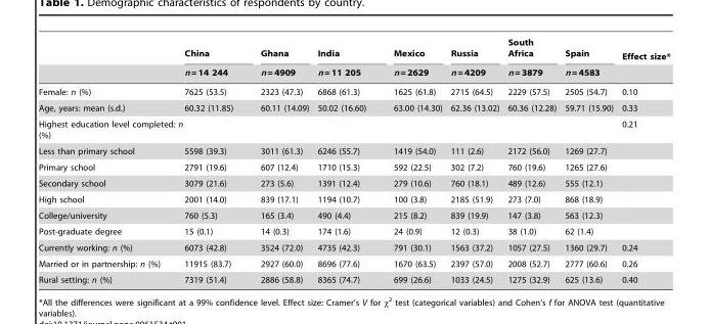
<table><thead><tr><td rowspan="2"></td><td rowspan="2">China n = 14 244</td><td rowspan="2">Ghana n = 4909</td><td rowspan="2">India n = 11 205</td><td rowspan="2">Mexico n = 2629</td><td rowspan="2">Russia n = 4209</td><td rowspan="2">South Africa n = 3879</td><td rowspan="2">Spain n = 4583</td><td rowspan="2">Effect size*</td></tr><tr></tr></thead><tbody><tr><td>Female: n (%)</td><td>7625 (53.5)</td><td>2323 (47.3)</td><td>6868 (61.3)</td><td>1625 (61.8)</td><td>2715 (64.5)</td><td>2229 (57.5)</td><td>2505 (54.7)</td><td>0.10</td></tr><tr><td>Age, years: mean (s.d.)</td><td>60.32 (11.85)</td><td>60.11 (14.09)</td><td>50.02 (16.60)</td><td>63.00 (14.30)</td><td>62.36 (13.02)</td><td>60.36 (12.28)</td><td>59.71 (15.90)</td><td>0.33</td></tr><tr><td>Highest education level completed: n (%)</td><td></td><td></td><td></td><td></td><td></td><td></td><td></td><td>0.21</td></tr><tr><td>Less than primary school</td><td>5598 (39.3)</td><td>3011 (61.3)</td><td>6246 (55.7)</td><td>1419 (54.0)</td><td>111 (2.6)</td><td>2172 (56.0)</td><td>1269 (27.7)</td><td></td></tr><tr><td>Primary school</td><td>2791 (19.6)</td><td>607 (12.4)</td><td>1710 (15.3)</td><td>592 (22.5)</td><td>302 (7.2)</td><td>760 (19.6)</td><td>1265 (27.6)</td><td></td></tr><tr><td>Secondary school</td><td>3079 (21.6)</td><td>273 (5.6)</td><td>1391 (12.4)</td><td>279 (10.6)</td><td>760 (18.1)</td><td>489 (12.6)</td><td>555 (12.1)</td><td></td></tr><tr><td>High school</td><td>2001 (14.0)</td><td>839 (17.1)</td><td>1194 (10.7)</td><td>100 (3.8)</td><td>2185 (51.9)</td><td>273 (7.0)</td><td>868 (18.9)</td><td></td></tr><tr><td>College/university</td><td>760 (5.3)</td><td>165 (3.4)</td><td>490 (4.4)</td><td>215 (8.2)</td><td>839 (19.9)</td><td>147 (3.8)</td><td>563 (12.3)</td><td></td></tr><tr><td>Post-graduate degree</td><td>15 (0.1)</td><td>14 (0.3)</td><td>174 (1.6)</td><td>24 (0.9)</td><td>12 (0.3)</td><td>38 (1.0)</td><td>62 (1.4)</td><td></td></tr><tr><td>Currently working: n (%)</td><td>6073 (42.8)</td><td>3524 (72.0)</td><td>4735 (42.3)</td><td>791 (30.1)</td><td>1563 (37.2)</td><td>1057 (27.5)</td><td>1360 (29.7)</td><td>0.24</td></tr><tr><td>Married or in partnership: n (%)</td><td>11915 (83.7)</td><td>2927 (60.0)</td><td>8696 (77.6)</td><td>1670 (63.5)</td><td>2397 (57.0)</td><td>2008 (52.7)</td><td>2777 (60.6)</td><td>0.26</td></tr><tr><td>Rural setting: n (%)</td><td>7319 (51.4)</td><td>2886 (58.8)</td><td>8365 (74.7)</td><td>699 (26.6)</td><td>1033 (24.5)</td><td>1275 (32.9)</td><td>625 (13.6)</td><td>0.40</td></tr></tbody></table>